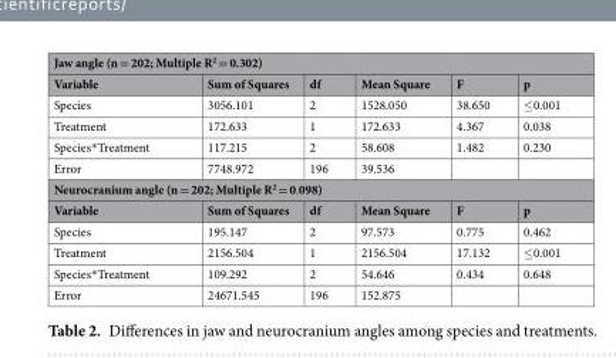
<table><thead><tr><td colspan="6">Jaw angle (n = 202; Multiple R<sup>2</sup> = 0.302)</td></tr><tr><td>Variable</td><td>Sum of Squares</td><td>df</td><td>Mean Square</td><td>F</td><td>p</td></tr></thead><tbody><tr><td>Species</td><td>3056.101</td><td>2</td><td>1528.050</td><td>38.650</td><td>≤0.001</td></tr><tr><td>Treatment</td><td>172.633</td><td>1</td><td>172.633</td><td>4.367</td><td>0.038</td></tr><tr><td>Species*Treatment</td><td>117.215</td><td>2</td><td>58.608</td><td>1.482</td><td>0.230</td></tr><tr><td>Error</td><td>7748.972</td><td>196</td><td>39.536</td><td></td><td></td></tr><tr><td colspan="6">Neurocranium angle (n = 202; Multiple R<sup>2</sup> = 0.098)</td></tr><tr><td>Variable</td><td>Sum of Squares</td><td>df</td><td>Mean Square</td><td>F</td><td>p</td></tr><tr><td>Species</td><td>195.147</td><td>2</td><td>97.573</td><td>0.775</td><td>0.462</td></tr><tr><td>Treatment</td><td>2156.504</td><td>1</td><td>2156.504</td><td>17.132</td><td>≤0.001</td></tr><tr><td>Species*Treatment</td><td>109.292</td><td>2</td><td>54.646</td><td>0.434</td><td>0.648</td></tr><tr><td>Error</td><td>24671.545</td><td>196</td><td>152.875</td><td></td><td></td></tr></tbody></table>